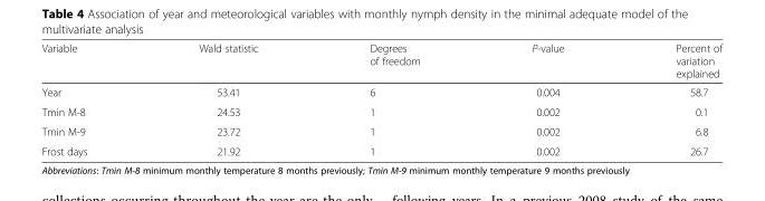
<table><thead><tr><td>Variable</td><td>Wald statistic</td><td>Degrees of freedom</td><td>P-value</td><td>Percent of variation explained</td></tr></thead><tbody><tr><td>Year</td><td>53.41</td><td>6</td><td>0.004</td><td>58.7</td></tr><tr><td>Tmin M-8</td><td>24.53</td><td>1</td><td>0.002</td><td>0.1</td></tr><tr><td>Tmin M-9</td><td>23.72</td><td>1</td><td>0.002</td><td>6.8</td></tr><tr><td>Frost days</td><td>21.92</td><td>1</td><td>0.002</td><td>26.7</td></tr></tbody></table>